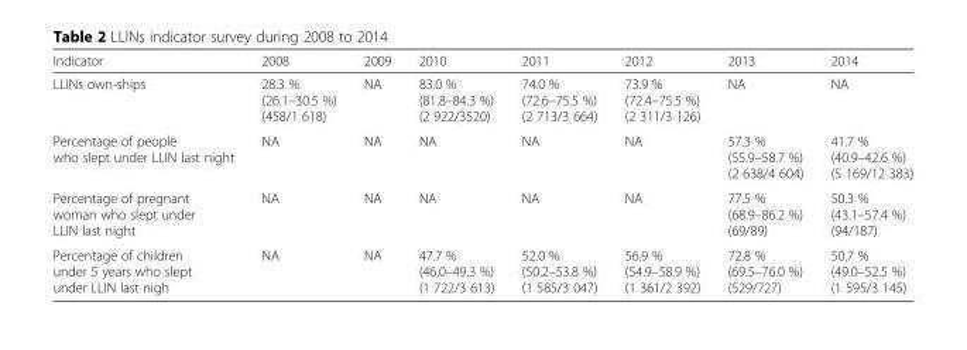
<table><thead><tr><td>Indicator</td><td>2008</td><td>2009</td><td>2010</td><td>2011</td><td>2012</td><td>2013</td><td>2014</td></tr></thead><tbody><tr><td>LLINs own-ships</td><td>28.3 % (26.1–30.5 %) (458/1 618)</td><td>NA</td><td>83.0 % (81.8–84.3 %) (2 922/3520)</td><td>74.0 % (72.6–75.5 %) (2 713/3 664)</td><td>73.9 % (72.4–75.5 %) (2 311/3 126)</td><td>NA</td><td>NA</td></tr><tr><td>Percentage of people who slept under LLIN last night</td><td>NA</td><td>NA</td><td>NA</td><td>NA</td><td>NA</td><td>57.3 % (55.9–58.7 %) (2 638/4 604)</td><td>41.7 % (40.9–42.6 %) (5 169/12 383)</td></tr><tr><td>Percentage of pregnant woman who slept under LLIN last night</td><td>NA</td><td>NA</td><td>NA</td><td>NA</td><td>NA</td><td>77.5 % (68.9–86.2 %) (69/89)</td><td>50.3 % (43.1–57.4 %) (94/187)</td></tr><tr><td>Percentage of children under 5 years who slept under LLIN last nigh</td><td>NA</td><td>NA</td><td>47.7 % (46.0–49.3 %) (1 722/3 613)</td><td>52.0 % (50.2–53.8 %) (1 585/3 047)</td><td>56.9 % (54.9–58.9 %) (1 361/2 392)</td><td>72.8 % (69.5–76.0 %) (529/727)</td><td>50.7 % (49.0–52.5 %) (1 595/3 145)</td></tr></tbody></table>